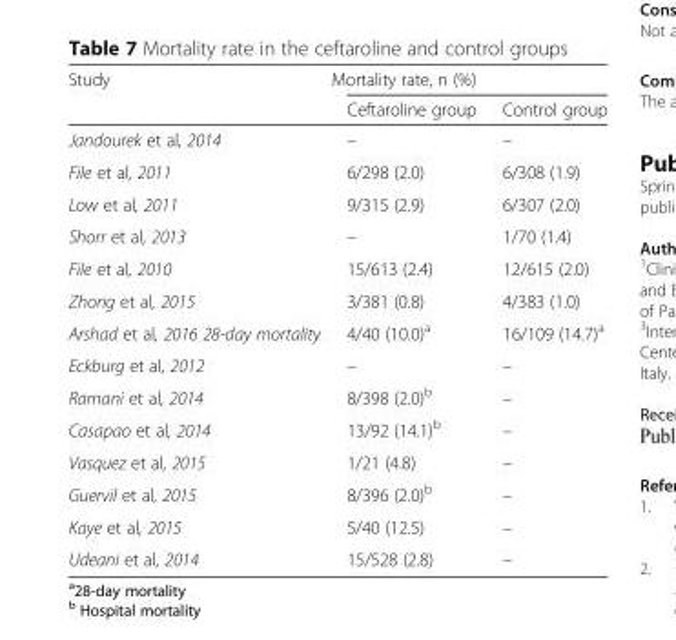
<table><thead><tr><td rowspan="2">Study</td><td colspan="2">Mortality rate, n (%)</td></tr><tr><td>Ceftaroline group</td><td>Control group</td></tr></thead><tbody><tr><td>Jandourek et al, 2014</td><td>–</td><td>–</td></tr><tr><td>File et al, 2011</td><td>6/298 (2.0)</td><td>6/308 (1.9)</td></tr><tr><td>Low et al, 2011</td><td>9/315 (2.9)</td><td>6/307 (2.0)</td></tr><tr><td>Shorr et al, 2013</td><td>–</td><td>1/70 (1.4)</td></tr><tr><td>File et al, 2010</td><td>15/613 (2.4)</td><td>12/615 (2.0)</td></tr><tr><td>Zhong et al, 2015</td><td>3/381 (0.8)</td><td>4/383 (1.0)</td></tr><tr><td>Arshad et al, 2016 28-day mortality</td><td>4/40 (10.0)<sup>a</sup></td><td>16/109 (14.7)<sup>a</sup></td></tr><tr><td>Eckburg et al, 2012</td><td>–</td><td>–</td></tr><tr><td>Ramani et al, 2014</td><td>8/398 (2.0)<sup>b</sup></td><td>–</td></tr><tr><td>Casapao et al, 2014</td><td>13/92 (14.1)<sup>b</sup></td><td>–</td></tr><tr><td>Vasquez et al, 2015</td><td>1/21 (4.8)</td><td>–</td></tr><tr><td>Guervil et al, 2015</td><td>8/396 (2.0)<sup>b</sup></td><td>–</td></tr><tr><td>Kaye et al, 2015</td><td>5/40 (12.5)</td><td>–</td></tr><tr><td>Udeani et al, 2014</td><td>15/528 (2.8)</td><td>–</td></tr></tbody></table>